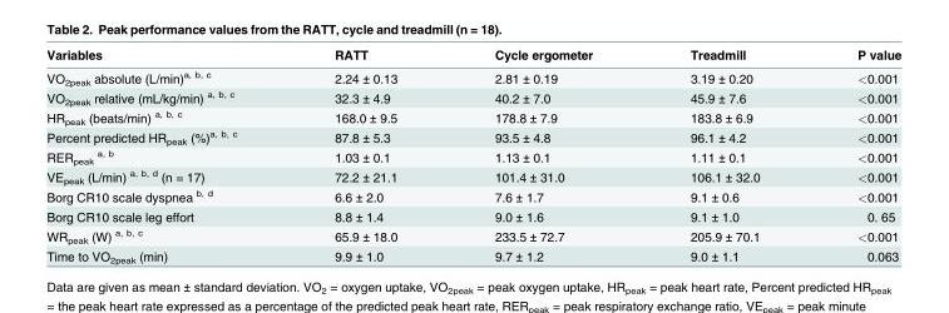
<table><thead><tr><td>Variables</td><td>RATT</td><td>Cycle ergometer</td><td>Treadmill</td><td>P value</td></tr></thead><tbody><tr><td>VO<sub>2peak</sub> absolute (L/min)<sup>a, b, c</sup></td><td>2.24 ± 0.13</td><td>2.81 ± 0.19</td><td>3.19 ± 0.20</td><td>&lt;0.001</td></tr><tr><td>VO<sub>2peak</sub> relative (mL/kg/min) <sup>a, b, c</sup></td><td>32.3 ± 4.9</td><td>40.2 ± 7.0</td><td>45.9 ± 7.6</td><td>&lt;0.001</td></tr><tr><td>HR<sub>peak</sub> (beats/min) <sup>a, b, c</sup></td><td>168.0 ± 9.5</td><td>178.8 ± 7.9</td><td>183.8 ± 6.9</td><td>&lt;0.001</td></tr><tr><td>Percent predicted HR<sub>peak</sub> (%)<sup>a, b, c</sup></td><td>87.8 ± 5.3</td><td>93.5 ± 4.8</td><td>96.1 ± 4.2</td><td>&lt;0.001</td></tr><tr><td>RER<sub>peak</sub> <sup>a, b</sup></td><td>1.03 ± 0.1</td><td>1.13 ± 0.1</td><td>1.11 ± 0.1</td><td>&lt;0.001</td></tr><tr><td>VE<sub>peak</sub> (L/min) <sup>a, b, d</sup> (n = 17)</td><td>72.2 ± 21.1</td><td>101.4 ± 31.0</td><td>106.1 ± 32.0</td><td>&lt;0.001</td></tr><tr><td>Borg CR10 scale dyspnea <sup>b, d</sup></td><td>6.6 ± 2.0</td><td>7.6 ± 1.7</td><td>9.1 ± 0.6</td><td>&lt;0.001</td></tr><tr><td>Borg CR10 scale leg effort</td><td>8.8 ± 1.4</td><td>9.0 ± 1.6</td><td>9.1 ± 1.0</td><td>0. 65</td></tr><tr><td>WR<sub>peak</sub> (W) <sup>a, b, c</sup></td><td>65.9 ± 18.0</td><td>233.5 ± 72.7</td><td>205.9 ± 70.1</td><td>&lt;0.001</td></tr><tr><td>Time to VO<sub>2peak</sub> (min)</td><td>9.9 ± 1.0</td><td>9.7 ± 1.2</td><td>9.0 ± 1.1</td><td>0.063</td></tr></tbody></table>